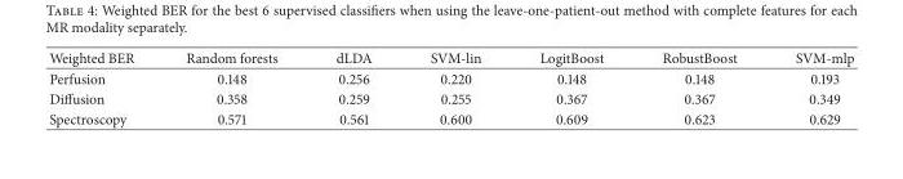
<table><thead><tr><td>Weighted BER</td><td>Random forests</td><td>dLDA</td><td>SVM-lin</td><td>LogitBoost</td><td>RobustBoost</td><td>SVM-mlp</td></tr></thead><tbody><tr><td>Perfusion</td><td>0.148</td><td>0.256</td><td>0.220</td><td>0.148</td><td>0.148</td><td>0.193</td></tr><tr><td>Diffusion</td><td>0.358</td><td>0.259</td><td>0.255</td><td>0.367</td><td>0.367</td><td>0.349</td></tr><tr><td>Spectroscopy</td><td>0.571</td><td>0.561</td><td>0.600</td><td>0.609</td><td>0.623</td><td>0.629</td></tr></tbody></table>